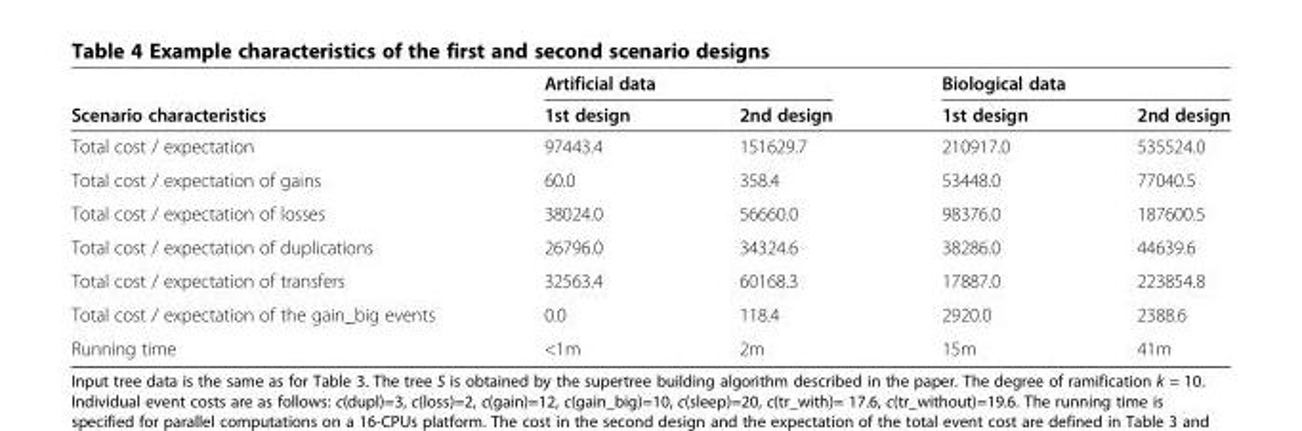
<table><thead><tr><td rowspan="2">Scenario characteristics</td><td colspan="2">Artificial data</td><td colspan="2">Biological data</td></tr><tr><td>1st design</td><td>2nd design</td><td>1st design</td><td>2nd design</td></tr></thead><tbody><tr><td>Total cost / expectation</td><td>97443.4</td><td>151629.7</td><td>210917.0</td><td>535524.0</td></tr><tr><td>Total cost / expectation of gains</td><td>60.0</td><td>358.4</td><td>53448.0</td><td>77040.5</td></tr><tr><td>Total cost / expectation of losses</td><td>38024.0</td><td>56660.0</td><td>98376.0</td><td>187600.5</td></tr><tr><td>Total cost / expectation of duplications</td><td>26796.0</td><td>34324.6</td><td>38286.0</td><td>44639.6</td></tr><tr><td>Total cost / expectation of transfers</td><td>32563.4</td><td>60168.3</td><td>17887.0</td><td>223854.8</td></tr><tr><td>Total cost / expectation of the gain_big events</td><td>0.0</td><td>118.4</td><td>2920.0</td><td>2388.6</td></tr><tr><td>Running time</td><td>&lt;1m</td><td>2m</td><td>15m</td><td>41m</td></tr></tbody></table>